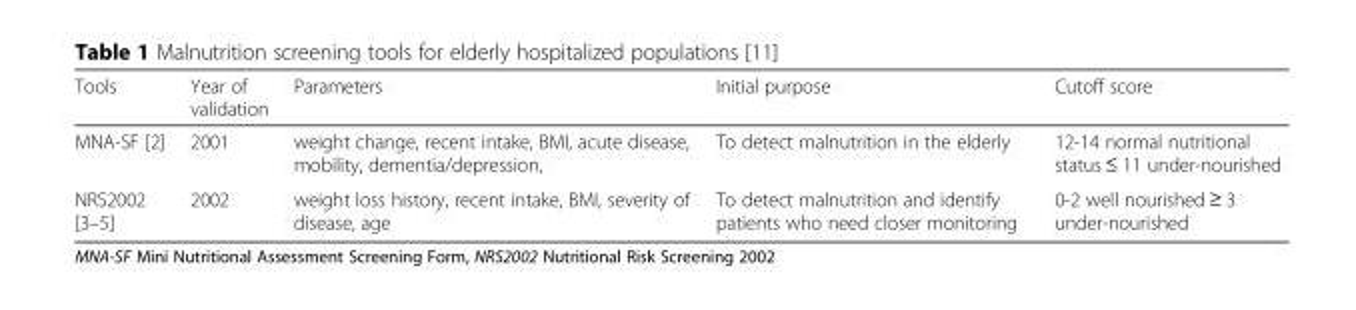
<table><thead><tr><td>Tools</td><td>Year of validation</td><td>Parameters</td><td>Initial purpose</td><td>Cutoff score</td></tr></thead><tbody><tr><td>MNA-SF [2]</td><td>2001</td><td>weight change, recent intake, BMI, acute disease, mobility, dementia/depression,</td><td>To detect malnutrition in the elderly</td><td>12-14 normal nutritional status ≤ 11 under-nourished</td></tr><tr><td>NRS2002 [3–5]</td><td>2002</td><td>weight loss history, recent intake, BMI, severity of disease, age</td><td>To detect malnutrition and identify patients who need closer monitoring</td><td>0-2 well nourished ≥ 3 under-nourished</td></tr></tbody></table>